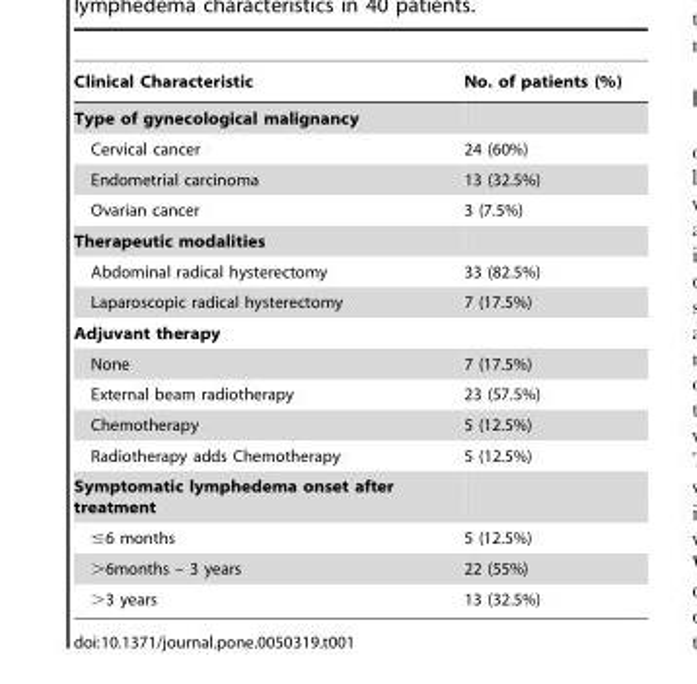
<table><thead><tr><td>Clinical Characteristic</td><td>No. of patients (%)</td></tr></thead><tbody><tr><td colspan="2">Type of gynecological malignancy</td></tr><tr><td>Cervical cancer</td><td>24 (60%)</td></tr><tr><td>Endometrial carcinoma</td><td>13 (32.5%)</td></tr><tr><td>Ovarian cancer</td><td>3 (7.5%)</td></tr><tr><td colspan="2">Therapeutic modalities</td></tr><tr><td>Abdominal radical hysterectomy</td><td>33 (82.5%)</td></tr><tr><td>Laparoscopic radical hysterectomy</td><td>7 (17.5%)</td></tr><tr><td colspan="2">Adjuvant therapy</td></tr><tr><td>None</td><td>7 (17.5%)</td></tr><tr><td>External beam radiotherapy</td><td>23 (57.5%)</td></tr><tr><td>Chemotherapy</td><td>5 (12.5%)</td></tr><tr><td>Radiotherapy adds Chemotherapy</td><td>5 (12.5%)</td></tr><tr><td colspan="2">Symptomatic lymphedema onset after treatment</td></tr><tr><td>≤6 months</td><td>5 (12.5%)</td></tr><tr><td>&gt;6months – 3 years</td><td>22 (55%)</td></tr><tr><td>&gt;3 years</td><td>13 (32.5%)</td></tr></tbody></table>